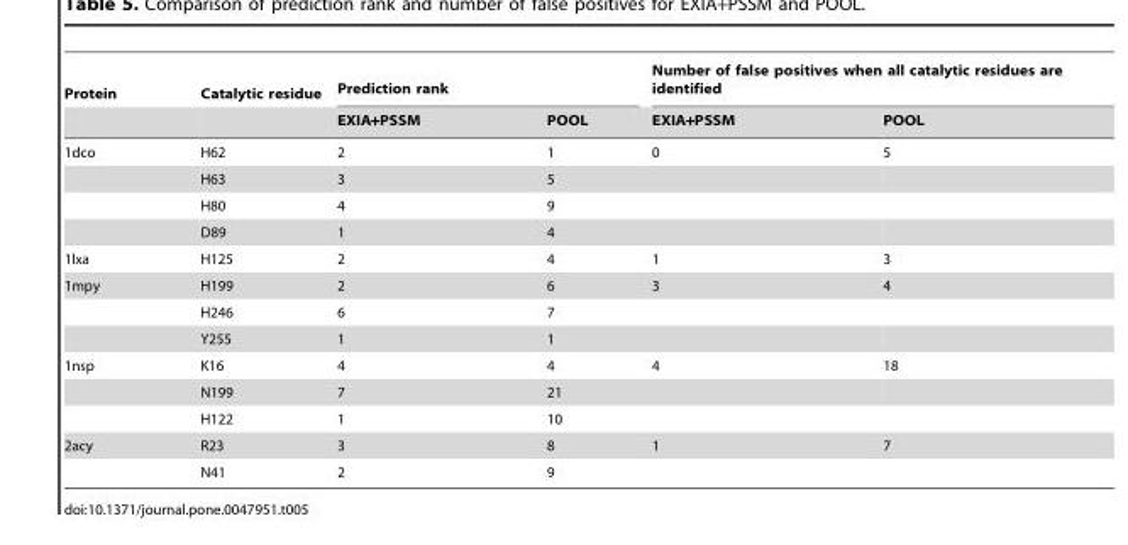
<table><thead><tr><td rowspan="2">Protein</td><td rowspan="2">Catalytic residue</td><td colspan="2">Prediction rank</td><td colspan="2">Number of false positives when all catalytic residues are identified</td></tr><tr><td>EXIA+PSSM</td><td>POOL</td><td>EXIA+PSSM</td><td>POOL</td></tr></thead><tbody><tr><td rowspan="4">1dco</td><td>H62</td><td>2</td><td>1</td><td>0</td><td>5</td></tr><tr><td>H63</td><td>3</td><td>5</td><td></td><td></td></tr><tr><td>H80</td><td>4</td><td>9</td><td></td><td></td></tr><tr><td>D89</td><td>1</td><td>4</td><td></td><td></td></tr><tr><td>1lxa</td><td>H125</td><td>2</td><td>4</td><td>1</td><td>3</td></tr><tr><td rowspan="3">1mpy</td><td>H199</td><td>2</td><td>6</td><td>3</td><td>4</td></tr><tr><td>H246</td><td>6</td><td>7</td><td></td><td></td></tr><tr><td>Y255</td><td>1</td><td>1</td><td></td><td></td></tr><tr><td rowspan="3">1nsp</td><td>K16</td><td>4</td><td>4</td><td>4</td><td>18</td></tr><tr><td>N199</td><td>7</td><td>21</td><td></td><td></td></tr><tr><td>H122</td><td>1</td><td>10</td><td></td><td></td></tr><tr><td rowspan="2">2acy</td><td>R23</td><td>3</td><td>8</td><td>1</td><td>7</td></tr><tr><td>N41</td><td>2</td><td>9</td><td></td><td></td></tr></tbody></table>